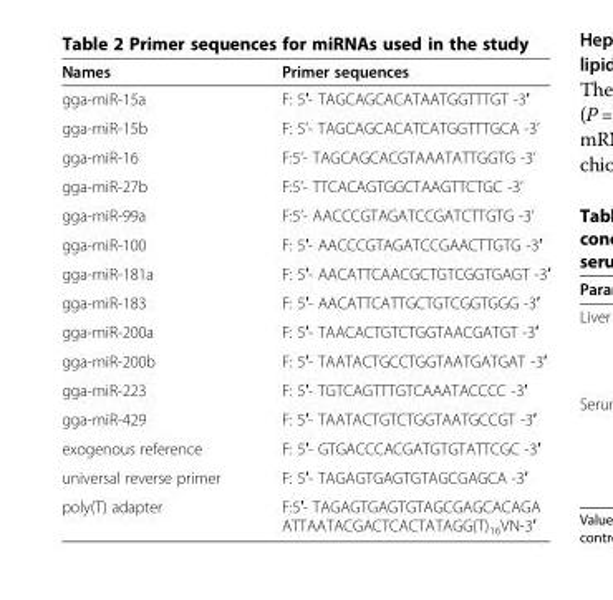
<table><thead><tr><td>Names</td><td>Primer sequences</td></tr></thead><tbody><tr><td>gga-miR-15a</td><td>F: 5′- TAGCAGCACATAATGGTTTGT -3′</td></tr><tr><td>gga-miR-15b</td><td>F: 5’- TAGCAGCACATCATGGTTTGCA -3’</td></tr><tr><td>gga-miR-16</td><td>F:5’- TAGCAGCACGTAAATATTGGTG -3’</td></tr><tr><td>gga-miR-27b</td><td>F:5’- TTCACAGTGGCTAAGTTCTGC -3’</td></tr><tr><td>gga-miR-99a</td><td>F:5’- AACCCGTAGATCCGATCTTGTG -3’</td></tr><tr><td>gga-miR-100</td><td>F: 5′- AACCCGTAGATCCGAACTTGTG -3′</td></tr><tr><td>gga-miR-181a</td><td>F: 5′- AACATTCAACGCTGTCGGTGAGT -3′</td></tr><tr><td>gga-miR-183</td><td>F: 5′- AACATTCATTGCTGTCGGTGGG -3′</td></tr><tr><td>gga-miR-200a</td><td>F: 5′- TAACACTGTCTGGTAACGATGT -3′</td></tr><tr><td>gga-miR-200b</td><td>F: 5′- TAATACTGCCTGGTAATGATGAT -3′</td></tr><tr><td>gga-miR-223</td><td>F: 5′- TGTCAGTTTGTCAAATACCCC -3′</td></tr><tr><td>gga-miR-429</td><td>F: 5′- TAATACTGTCTGGTAATGCCGT -3′</td></tr><tr><td>exogenous reference</td><td>F: 5′- GTGACCCACGATGTGTATTCGC -3′</td></tr><tr><td>universal reverse primer</td><td>F: 5′- TAGAGTGAGTGTAGCGAGCA -3′</td></tr><tr><td>poly(T) adapter</td><td>F:5′- TAGAGTGAGTGTAGCGAGCACAGA ATTAATACGACTCACTATAGG(T)<sub>16</sub>VN-3′</td></tr></tbody></table>